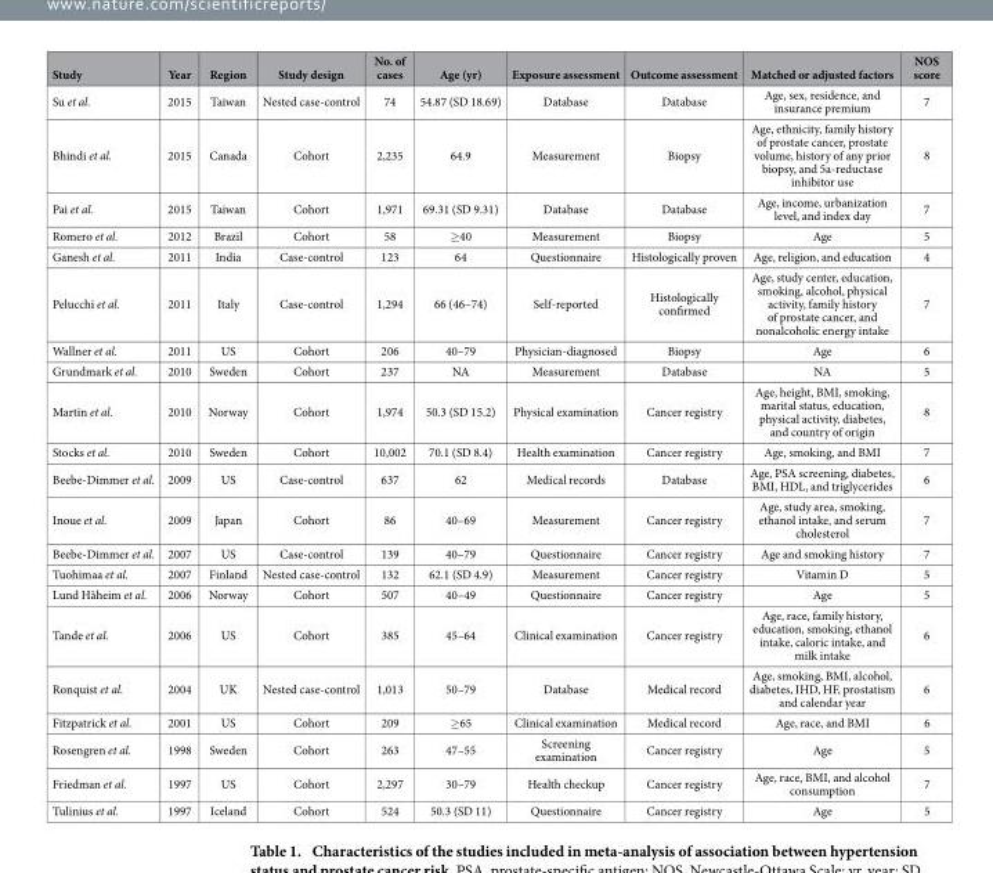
<table><thead><tr><td>Study</td><td>Year</td><td>Region</td><td>Study design</td><td>No. of cases</td><td>Age (yr)</td><td>Exposure assessment</td><td>Outcome assessment</td><td>Matched or adjusted factors</td><td>NOS score</td></tr></thead><tbody><tr><td>Su et al.</td><td>2015</td><td>Taiwan</td><td>Nested case-control</td><td>74</td><td>54.87 (SD 18.69)</td><td>Database</td><td>Database</td><td>Age, sex, residence, and insurance premium</td><td>7</td></tr><tr><td>Bhindi et al.</td><td>2015</td><td>Canada</td><td>Cohort</td><td>2,235</td><td>64.9</td><td>Measurement</td><td>Biopsy</td><td>Age, ethnicity, family history of prostate cancer, prostate volume, history of any prior biopsy, and 5a-reductase inhibitor use</td><td>8</td></tr><tr><td>Pai et al.</td><td>2015</td><td>Taiwan</td><td>Cohort</td><td>1,971</td><td>69.31 (SD 9.31)</td><td>Database</td><td>Database</td><td>Age, income, urbanization level, and index day</td><td>7</td></tr><tr><td>Romero et al.</td><td>2012</td><td>Brazil</td><td>Cohort</td><td>58</td><td>≥ 40</td><td>Measurement</td><td>Biopsy</td><td>Age</td><td>5</td></tr><tr><td>Ganesh et al.</td><td>2011</td><td>India</td><td>Case-control</td><td>123</td><td>64</td><td>Questionnaire</td><td>Histologically proven</td><td>Age, religion, and education</td><td>4</td></tr><tr><td>Pelucchi et al.</td><td>2011</td><td>Italy</td><td>Case-control</td><td>1,294</td><td>66 (46–74)</td><td>Self-reported</td><td>Histologically confirmed</td><td>Age, study center, education, smoking, alcohol, physical activity, family history of prostate cancer, and nonalcoholic energy intake</td><td>7</td></tr><tr><td>Wallner et al.</td><td>2011</td><td>US</td><td>Cohort</td><td>206</td><td>40–79</td><td>Physician-diagnosed</td><td>Biopsy</td><td>Age</td><td>6</td></tr><tr><td>Grundmark et al.</td><td>2010</td><td>Sweden</td><td>Cohort</td><td>237</td><td>NA</td><td>Measurement</td><td>Database</td><td>NA</td><td>5</td></tr><tr><td>Martin et al.</td><td>2010</td><td>Norway</td><td>Cohort</td><td>1,974</td><td>50.3 (SD 15.2)</td><td>Physical examination</td><td>Cancer registry</td><td>Age, height, BMI, smoking, marital status, education, physical activity, diabetes, and country of origin</td><td>8</td></tr><tr><td>Stocks et al.</td><td>2010</td><td>Sweden</td><td>Cohort</td><td>10,002</td><td>70.1 (SD 8.4)</td><td>Health examination</td><td>Cancer registry</td><td>Age, smoking, and BMI</td><td>7</td></tr><tr><td>Beebe-Dimmer et al.</td><td>2009</td><td>US</td><td>Case-control</td><td>637</td><td>62</td><td>Medical records</td><td>Database</td><td>Age, PSA screening, diabetes, BMI, HDL, and triglycerides</td><td>6</td></tr><tr><td>Inoue et al.</td><td>2009</td><td>Japan</td><td>Cohort</td><td>86</td><td>40–69</td><td>Measurement</td><td>Cancer registry</td><td>Age, study area, smoking, ethanol intake, and serum cholesterol</td><td>7</td></tr><tr><td>Beebe-Dimmer et al.</td><td>2007</td><td>US</td><td>Case-control</td><td>139</td><td>40–79</td><td>Questionnaire</td><td>Cancer registry</td><td>Age and smoking history</td><td>7</td></tr><tr><td>Tuohimaa et al.</td><td>2007</td><td>Finland</td><td>Nested case-control</td><td>132</td><td>62.1 (SD 4.9)</td><td>Measurement</td><td>Cancer registry</td><td>Vitamin D</td><td>5</td></tr><tr><td>Lund Håheim et al.</td><td>2006</td><td>Norway</td><td>Cohort</td><td>507</td><td>40–49</td><td>Questionnaire</td><td>Cancer registry</td><td>Age</td><td>5</td></tr><tr><td>Tande et al.</td><td>2006</td><td>US</td><td>Cohort</td><td>385</td><td>45–64</td><td>Clinical examination</td><td>Cancer registry</td><td>Age, race, family history, education, smoking, ethanol intake, caloric intake, and milk intake</td><td>6</td></tr><tr><td>Ronquist et al.</td><td>2004</td><td>UK</td><td>Nested case-control</td><td>1,013</td><td>50–79</td><td>Database</td><td>Medical record</td><td>Age, smoking, BMI, alcohol, diabetes, IHD, HF, prostatism and calendar year</td><td>6</td></tr><tr><td>Fitzpatrick et al.</td><td>2001</td><td>US</td><td>Cohort</td><td>209</td><td>≥ 65</td><td>Clinical examination</td><td>Medical record</td><td>Age, race, and BMI</td><td>6</td></tr><tr><td>Rosengren et al.</td><td>1998</td><td>Sweden</td><td>Cohort</td><td>263</td><td>47–55</td><td>Screening examination</td><td>Cancer registry</td><td>Age</td><td>5</td></tr><tr><td>Friedman et al.</td><td>1997</td><td>US</td><td>Cohort</td><td>2,297</td><td>30–79</td><td>Health checkup</td><td>Cancer registry</td><td>Age, race, BMI, and alcohol consumption</td><td>7</td></tr><tr><td>Tulinius et al.</td><td>1997</td><td>Iceland</td><td>Cohort</td><td>524</td><td>50.3 (SD 11)</td><td>Questionnaire</td><td>Cancer registry</td><td>Age</td><td>5</td></tr></tbody></table>